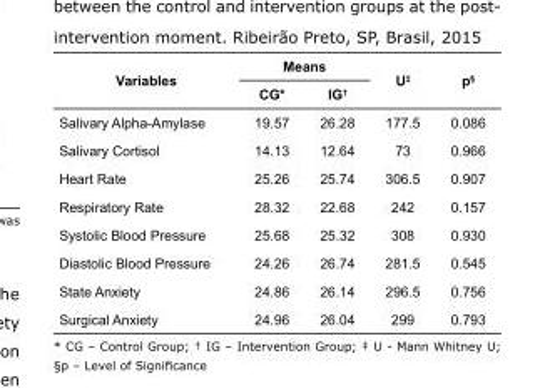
<table><tbody><tr><td rowspan="2">Variables</td><td colspan="2">Means</td><td rowspan="2">U<sup>‡</sup></td><td rowspan="2">p<sup>§</sup></td></tr><tr><td>CG*</td><td>IG<sup>†</sup></td></tr><tr><td>Salivary Alpha-Amylase</td><td>19.57</td><td>26.28</td><td>177.5</td><td>0.086</td></tr><tr><td>Salivary Cortisol</td><td>14.13</td><td>12.64</td><td>73</td><td>0.966</td></tr><tr><td>Heart Rate</td><td>25.26</td><td>25.74</td><td>306.5</td><td>0.907</td></tr><tr><td>Respiratory Rate</td><td>28.32</td><td>22.68</td><td>242</td><td>0.157</td></tr><tr><td>Systolic Blood Pressure</td><td>25.68</td><td>25.32</td><td>308</td><td>0.930</td></tr><tr><td>Diastolic Blood Pressure</td><td>24.26</td><td>26.74</td><td>281.5</td><td>0.545</td></tr><tr><td>State Anxiety</td><td>24.86</td><td>26.14</td><td>296.5</td><td>0.756</td></tr><tr><td>Surgical Anxiety</td><td>24.96</td><td>26.04</td><td>299</td><td>0.793</td></tr></tbody></table>